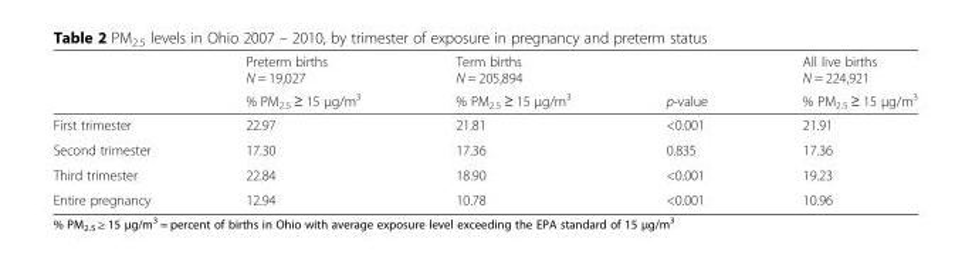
<table><thead><tr><td rowspan="2"></td><td rowspan="2">Preterm births N = 19,027 % PM<sub>2.5</sub> ≥ 15 μg/m<sup>3</sup></td><td rowspan="2">Term births N = 205,894 % PM<sub>2.5</sub> ≥ 15 μg/m<sup>3</sup></td><td rowspan="2">p-value</td><td rowspan="2">All live births N = 224,921 % PM<sub>2.5</sub> ≥ 15 μg/m<sup>3</sup></td></tr><tr></tr></thead><tbody><tr><td>First trimester</td><td>22.97</td><td>21.81</td><td>&lt;0.001</td><td>21.91</td></tr><tr><td>Second trimester</td><td>17.30</td><td>17.36</td><td>0.835</td><td>17.36</td></tr><tr><td>Third trimester</td><td>22.84</td><td>18.90</td><td>&lt;0.001</td><td>19.23</td></tr><tr><td>Entire pregnancy</td><td>12.94</td><td>10.78</td><td>&lt;0.001</td><td>10.96</td></tr></tbody></table>